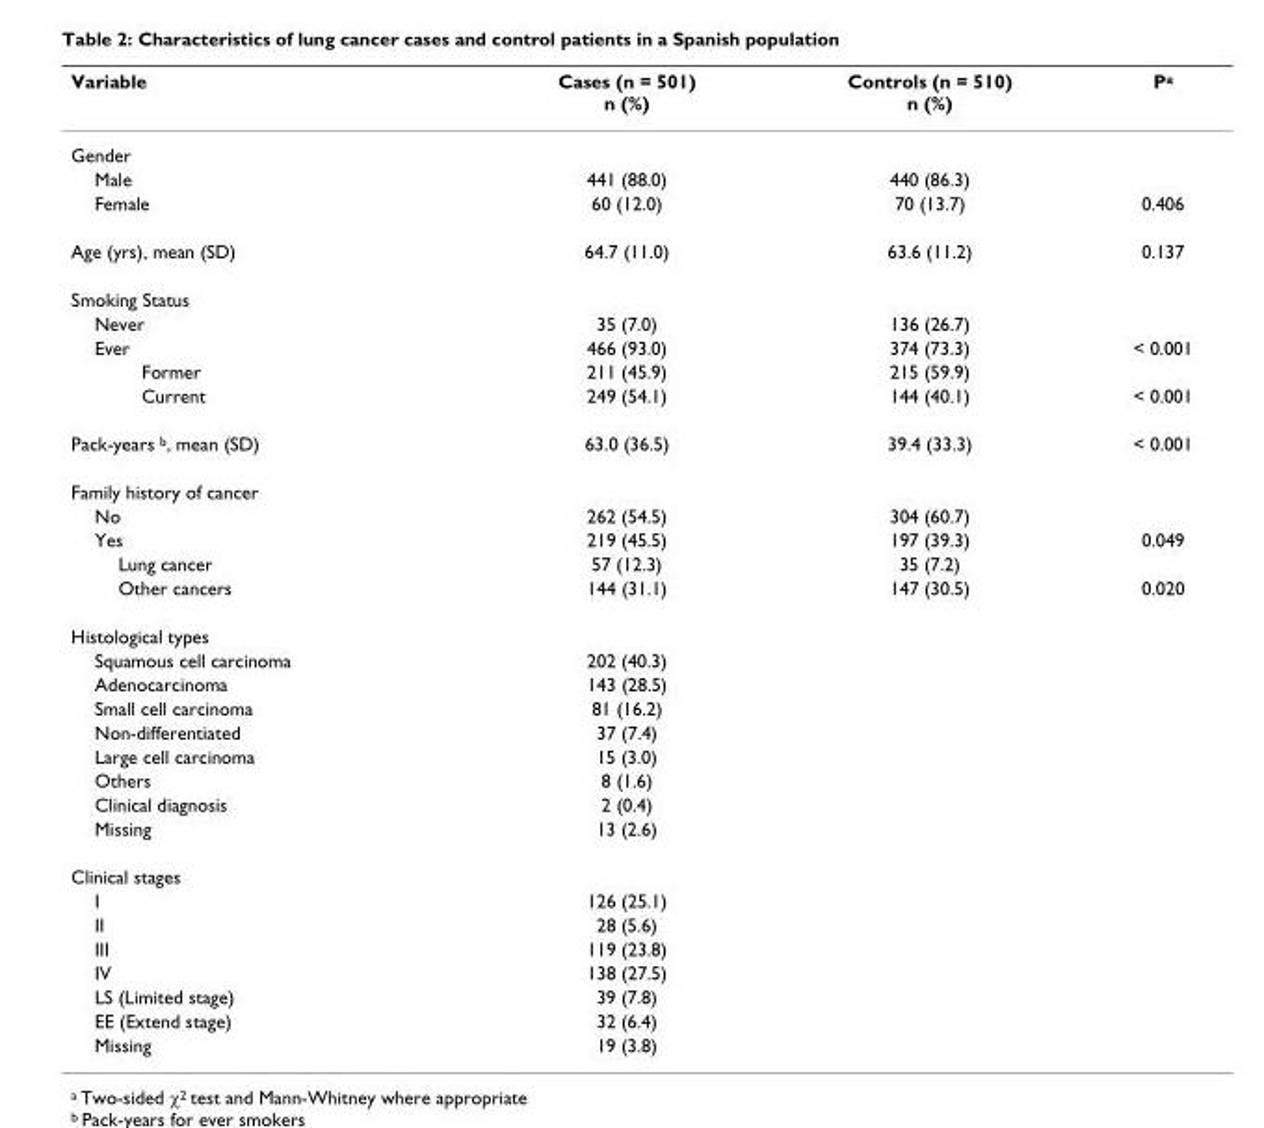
<table><thead><tr><td>Variable</td><td>Cases (n = 501) n (%)</td><td>Controls (n = 510) n (%)</td><td>P<sup>a</sup></td></tr></thead><tbody><tr><td colspan="4">Gender</td></tr><tr><td>Male</td><td>441 (88.0)</td><td>440 (86.3)</td><td></td></tr><tr><td>Female</td><td>60 (12.0)</td><td>70 (13.7)</td><td>0.406</td></tr><tr><td>Age (yrs), mean (SD)</td><td>64.7 (11.0)</td><td>63.6 (11.2)</td><td>0.137</td></tr><tr><td colspan="4">Smoking Status</td></tr><tr><td>Never</td><td>35 (7.0)</td><td>136 (26.7)</td><td></td></tr><tr><td>Ever</td><td>466 (93.0)</td><td>374 (73.3)</td><td>&lt; 0.001</td></tr><tr><td>Former</td><td>211 (45.9)</td><td>215 (59.9)</td><td></td></tr><tr><td>Current</td><td>249 (54.1)</td><td>144 (40.1)</td><td>&lt; 0.001</td></tr><tr><td>Pack-years <sup>b</sup>, mean (SD)</td><td>63.0 (36.5)</td><td>39.4 (33.3)</td><td>&lt; 0.001</td></tr><tr><td colspan="4">Family history of cancer</td></tr><tr><td>No</td><td>262 (54.5)</td><td>304 (60.7)</td><td></td></tr><tr><td>Yes</td><td>219 (45.5)</td><td>197 (39.3)</td><td>0.049</td></tr><tr><td>Lung cancer</td><td>57 (12.3)</td><td>35 (7.2)</td><td></td></tr><tr><td>Other cancers</td><td>144 (31.1)</td><td>147 (30.5)</td><td>0.020</td></tr><tr><td colspan="4">Histological types</td></tr><tr><td>Squamous cell carcinoma</td><td>202 (40.3)</td><td></td><td></td></tr><tr><td>Adenocarcinoma</td><td>143 (28.5)</td><td></td><td></td></tr><tr><td>Small cell carcinoma</td><td>81 (16.2)</td><td></td><td></td></tr><tr><td>Non-differentiated</td><td>37 (7.4)</td><td></td><td></td></tr><tr><td>Large cell carcinoma</td><td>15 (3.0)</td><td></td><td></td></tr><tr><td>Others</td><td>8 (1.6)</td><td></td><td></td></tr><tr><td>Clinical diagnosis</td><td>2 (0.4)</td><td></td><td></td></tr><tr><td>Missing</td><td>13 (2.6)</td><td></td><td></td></tr><tr><td colspan="4">Clinical stages</td></tr><tr><td>I</td><td>126 (25.1)</td><td></td><td></td></tr><tr><td>II</td><td>28 (5.6)</td><td></td><td></td></tr><tr><td>III</td><td>119 (23.8)</td><td></td><td></td></tr><tr><td>IV</td><td>138 (27.5)</td><td></td><td></td></tr><tr><td>LS (Limited stage)</td><td>39 (7.8)</td><td></td><td></td></tr><tr><td>EE (Extend stage)</td><td>32 (6.4)</td><td></td><td></td></tr><tr><td>Missing</td><td>19 (3.8)</td><td></td><td></td></tr></tbody></table>